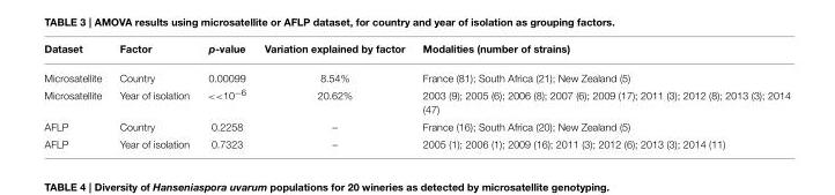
<table><thead><tr><td>Dataset</td><td>Factor</td><td>p-value</td><td>Variation explained by factor</td><td>Modalities (number of strains)</td></tr></thead><tbody><tr><td>Microsatellite</td><td>Country</td><td>0.00099</td><td>8.54%</td><td>France (81); South Africa (21); New Zealand (5)</td></tr><tr><td>Microsatellite</td><td>Year of isolation</td><td>&lt;&lt;10<sup>−6</sup></td><td>20.62%</td><td>2003 (9); 2005 (6); 2006 (8); 2007 (6); 2009 (17); 2011 (3); 2012 (8); 2013 (3); 2014 (47)</td></tr><tr><td>AFLP</td><td>Country</td><td>0.2258</td><td>–</td><td>France (16); South Africa (20); New Zealand (5)</td></tr><tr><td>AFLP</td><td>Year of isolation</td><td>0.7323</td><td>–</td><td>2005 (1); 2006 (1); 2009 (16); 2011 (3); 2012 (6); 2013 (3); 2014 (11)</td></tr></tbody></table>